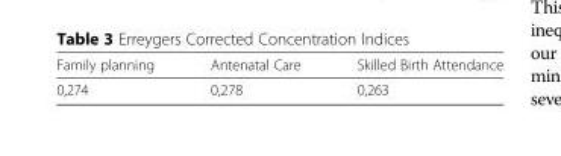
<table><thead><tr><td>Family planning</td><td>Antenatal Care</td><td>Skilled Birth Attendance</td></tr></thead><tbody><tr><td>0,274</td><td>0,278</td><td>0,263</td></tr></tbody></table>